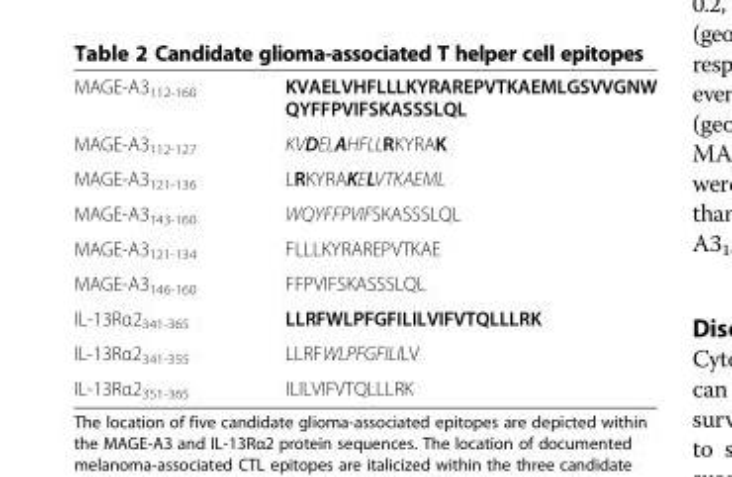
<table><tbody><tr><td>MAGE-A3<sub>112-160</sub></td><td>KVAELVHFLLLKYRAREPVTKAEMLGSVVGNW QYFFPVIFSKASSSLQL</td></tr><tr><td>MAGE-A3<sub>112-127</sub></td><td>KVDELAHFLLRKYRAK</td></tr><tr><td>MAGE-A3<sub>121-136</sub></td><td>LRKYRAKELVTKAEML</td></tr><tr><td>MAGE-A3<sub>143-160</sub></td><td>WQYFFPVIFSKASSSLQL</td></tr><tr><td>MAGE-A3<sub>121-134</sub></td><td>FLLLKYRAREPVTKAE</td></tr><tr><td>MAGE-A3<sub>146-160</sub></td><td>FFPVIFSKASSSLQL</td></tr><tr><td>IL-13Rα2<sub>341-365</sub></td><td>LLRFWLPFGFILILVIFVTQLLLRK</td></tr><tr><td>IL-13Rα2<sub>341-355</sub></td><td>LLRFWLPFGFILILV</td></tr><tr><td>IL-13Rα2<sub>351-365</sub></td><td>ILILVIFVTQLLLRK</td></tr></tbody></table>